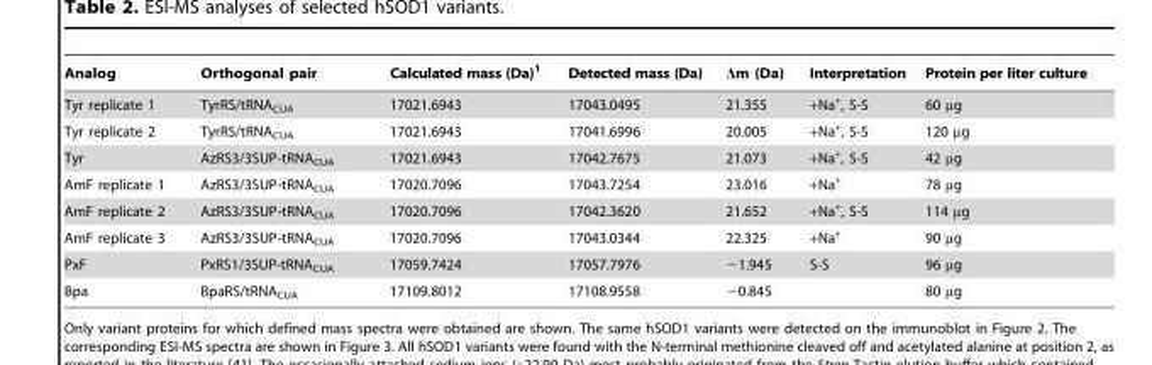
<table><thead><tr><td>Analog</td><td>Orthogonal pair</td><td>Calculated mass (Da)<sup>1</sup></td><td>Detected mass (Da)</td><td>Δm (Da)</td><td>Interpretation</td><td>Protein per liter culture</td></tr></thead><tbody><tr><td>Tyr replicate 1</td><td>TyrRS/tRNA<sub>CUA</sub></td><td>17021.6943</td><td>17043.0495</td><td>21.355</td><td>+Na<sup>+</sup>, S-S</td><td>60 µg</td></tr><tr><td>Tyr replicate 2</td><td>TyrRS/tRNA<sub>CUA</sub></td><td>17021.6943</td><td>17041.6996</td><td>20.005</td><td>+Na<sup>+</sup>, S-S</td><td>120 µg</td></tr><tr><td>Tyr</td><td>AzRS3/3SUP-tRNA<sub>CUA</sub></td><td>17021.6943</td><td>17042.7675</td><td>21.073</td><td>+Na<sup>+</sup>, S-S</td><td>42 µg</td></tr><tr><td>AmF replicate 1</td><td>AzRS3/3SUP-tRNA<sub>CUA</sub></td><td>17020.7096</td><td>17043.7254</td><td>23.016</td><td>+Na<sup>+</sup></td><td>78 µg</td></tr><tr><td>AmF replicate 2</td><td>AzRS3/3SUP-tRNA<sub>CUA</sub></td><td>17020.7096</td><td>17042.3620</td><td>21.652</td><td>+Na<sup>+</sup>, S-S</td><td>114 µg</td></tr><tr><td>AmF replicate 3</td><td>AzRS3/3SUP-tRNA<sub>CUA</sub></td><td>17020.7096</td><td>17043.0344</td><td>22.325</td><td>+Na<sup>+</sup></td><td>90 µg</td></tr><tr><td>PxF</td><td>PxRS1/3SUP-tRNA<sub>CUA</sub></td><td>17059.7424</td><td>17057.7976</td><td>−1.945</td><td>S-S</td><td>96 µg</td></tr><tr><td>Bpa</td><td>BpaRS/tRNA<sub>CUA</sub></td><td>17109.8012</td><td>17108.9558</td><td>−0.845</td><td></td><td>80 µg</td></tr></tbody></table>